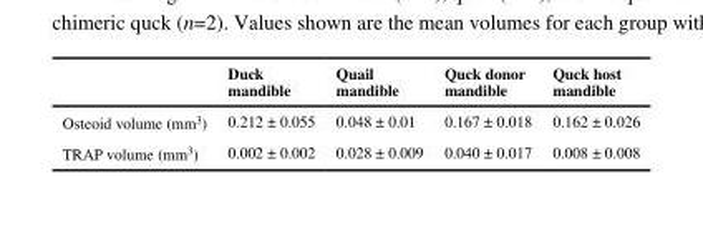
<table><thead><tr><td></td><td>Duck mandible</td><td>Quail mandible</td><td>Quck donor mandible</td><td>Quck host mandible</td></tr></thead><tbody><tr><td>Osteoid volume (mm<sup>3</sup>)</td><td>0.212 ± 0.055</td><td>0.048 ± 0.01</td><td>0.167 ± 0.018</td><td>0.162 ± 0.026</td></tr><tr><td>TRAP volume (mm<sup>3</sup>)</td><td>0.002 ± 0.002</td><td>0.028 ± 0.009</td><td>0.040 ± 0.017</td><td>0.008 ± 0.008</td></tr></tbody></table>